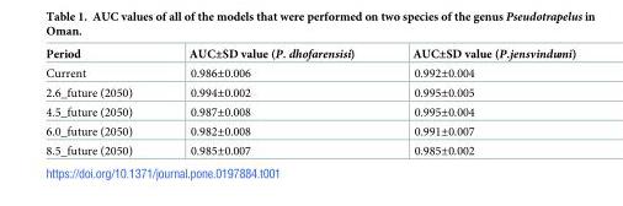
<table><thead><tr><td>Period</td><td>AUC±SD value (P. dhofarensisi)</td><td>AUC±SD value (P.jensvindumi)</td></tr></thead><tbody><tr><td>Current</td><td>0.986±0.006</td><td>0.992±0.004</td></tr><tr><td>2.6_future (2050)</td><td>0.994±0.002</td><td>0.995±0.005</td></tr><tr><td>4.5_future (2050)</td><td>0.987±0.008</td><td>0.995±0.004</td></tr><tr><td>6.0_future (2050)</td><td>0.982±0.008</td><td>0.991±0.007</td></tr><tr><td>8.5_future (2050)</td><td>0.985±0.007</td><td>0.985±0.002</td></tr></tbody></table>